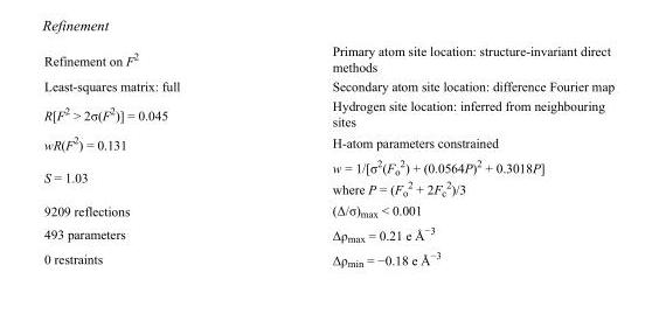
<table><tbody><tr><td>Refinement on F<sup>2</sup></td><td>Primary atom site location: structure-invariant direct methods</td></tr><tr><td>Least-squares matrix: full</td><td>Secondary atom site location: difference Fourier map</td></tr><tr><td>R[F<sup>2</sup> &gt; 2σ(F<sup>2</sup>)] = 0.045</td><td>Hydrogen site location: inferred from neighbouring sites</td></tr><tr><td>wR(F<sup>2</sup>) = 0.131</td><td>H-atom parameters constrained</td></tr><tr><td>S = 1.03</td><td>w = 1/[σ<sup>2</sup>(F<sub>o</sub> <sup>2</sup>) + (0.0564P)<sup>2</sup> + 0.3018P] where P = (F<sub>o</sub> <sup>2</sup> + 2F<sub>c</sub> <sup>2</sup>)/3</td></tr><tr><td>9209 reflections</td><td>(Δ/σ)<sub>max</sub> &lt; 0.001</td></tr><tr><td>493 parameters</td><td>Δρ<sub>max</sub> = 0.21 e Å<sup>−3</sup></td></tr><tr><td>0 restraints</td><td>Δρ<sub>min</sub> = −0.18 e Å<sup>−3</sup></td></tr></tbody></table>